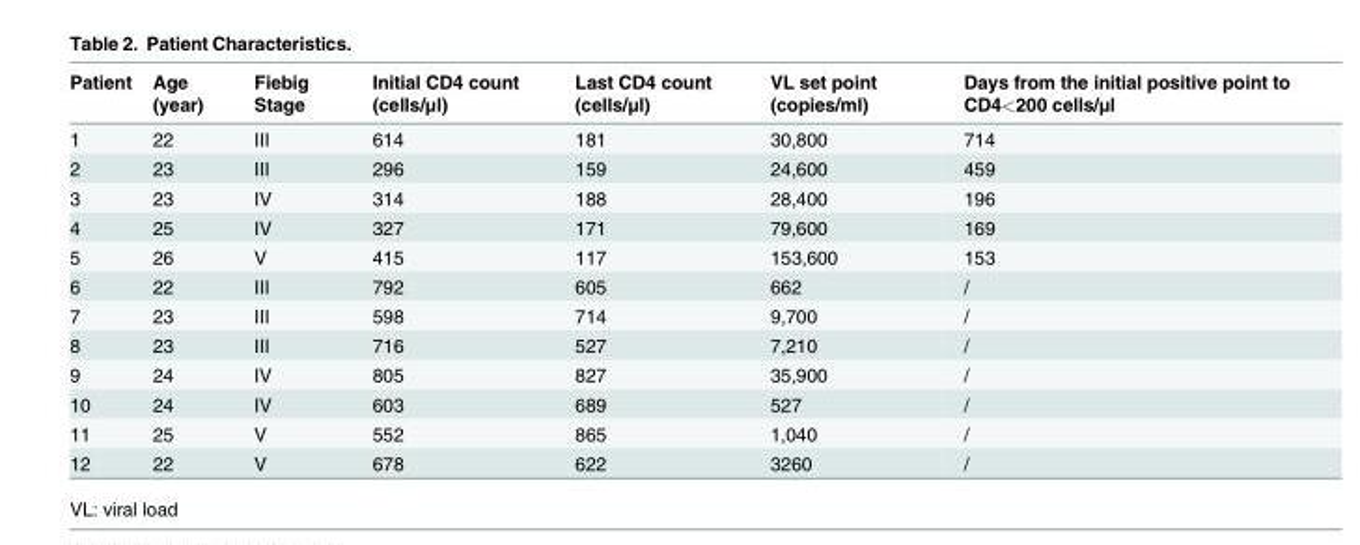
<table><thead><tr><td>Patient</td><td>Age (year)</td><td>Fiebig Stage</td><td>Initial CD4 count (cells/μl)</td><td>Last CD4 count (cells/μl)</td><td>VL set point (copies/ml)</td><td>Days from the initial positive point to CD4&lt;200 cells/μl</td></tr></thead><tbody><tr><td>1</td><td>22</td><td>III</td><td>614</td><td>181</td><td>30,800</td><td>714</td></tr><tr><td>2</td><td>23</td><td>III</td><td>296</td><td>159</td><td>24,600</td><td>459</td></tr><tr><td>3</td><td>23</td><td>IV</td><td>314</td><td>188</td><td>28,400</td><td>196</td></tr><tr><td>4</td><td>25</td><td>IV</td><td>327</td><td>171</td><td>79,600</td><td>169</td></tr><tr><td>5</td><td>26</td><td>V</td><td>415</td><td>117</td><td>153,600</td><td>153</td></tr><tr><td>6</td><td>22</td><td>III</td><td>792</td><td>605</td><td>662</td><td>/</td></tr><tr><td>7</td><td>23</td><td>III</td><td>598</td><td>714</td><td>9,700</td><td>/</td></tr><tr><td>8</td><td>23</td><td>III</td><td>716</td><td>527</td><td>7,210</td><td>/</td></tr><tr><td>9</td><td>24</td><td>IV</td><td>805</td><td>827</td><td>35,900</td><td>/</td></tr><tr><td>10</td><td>24</td><td>IV</td><td>603</td><td>689</td><td>527</td><td>/</td></tr><tr><td>11</td><td>25</td><td>V</td><td>552</td><td>865</td><td>1,040</td><td>/</td></tr><tr><td>12</td><td>22</td><td>V</td><td>678</td><td>622</td><td>3260</td><td>/</td></tr></tbody></table>